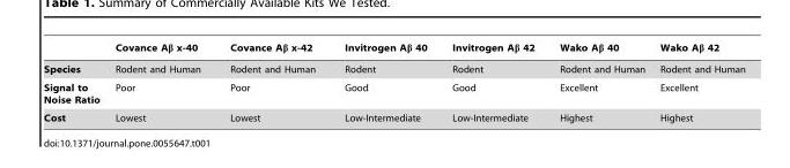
<table><thead><tr><td></td><td>Covance Aβ x-40</td><td>Covance Aβ x-42</td><td>Invitrogen Aβ 40</td><td>Invitrogen Aβ 42</td><td>Wako Aβ 40</td><td>Wako Aβ 42</td></tr></thead><tbody><tr><td>Species</td><td>Rodent and Human</td><td>Rodent and Human</td><td>Rodent</td><td>Rodent</td><td>Rodent and Human</td><td>Rodent and Human</td></tr><tr><td>Signal to Noise Ratio</td><td>Poor</td><td>Poor</td><td>Good</td><td>Good</td><td>Excellent</td><td>Excellent</td></tr><tr><td>Cost</td><td>Lowest</td><td>Lowest</td><td>Low-Intermediate</td><td>Low-Intermediate</td><td>Highest</td><td>Highest</td></tr></tbody></table>